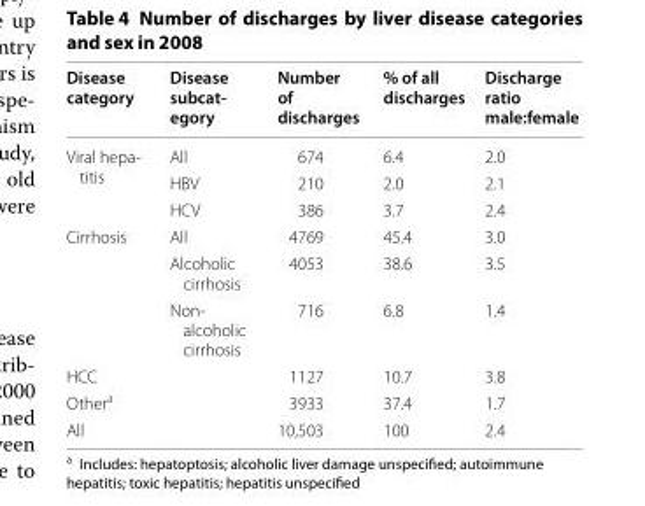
<table><thead><tr><td>Disease category</td><td>Disease subcat- egory</td><td>Number of discharges</td><td>% of all discharges</td><td>Discharge ratio male:female</td></tr></thead><tbody><tr><td rowspan="3">Viral hepa- titis</td><td>All</td><td>674</td><td>6.4</td><td>2.0</td></tr><tr><td>HBV</td><td>210</td><td>2.0</td><td>2.1</td></tr><tr><td>HCV</td><td>386</td><td>3.7</td><td>2.4</td></tr><tr><td rowspan="3">Cirrhosis</td><td>All</td><td>4769</td><td>45.4</td><td>3.0</td></tr><tr><td>Alcoholic cirrhosis</td><td>4053</td><td>38.6</td><td>3.5</td></tr><tr><td>Non- alcoholic cirrhosis</td><td>716</td><td>6.8</td><td>1.4</td></tr><tr><td colspan="2">HCC</td><td>1127</td><td>10.7</td><td>3.8</td></tr><tr><td colspan="2">Other<sup>a</sup></td><td>3933</td><td>37.4</td><td>1.7</td></tr><tr><td colspan="2">All</td><td>10,503</td><td>100</td><td>2.4</td></tr></tbody></table>